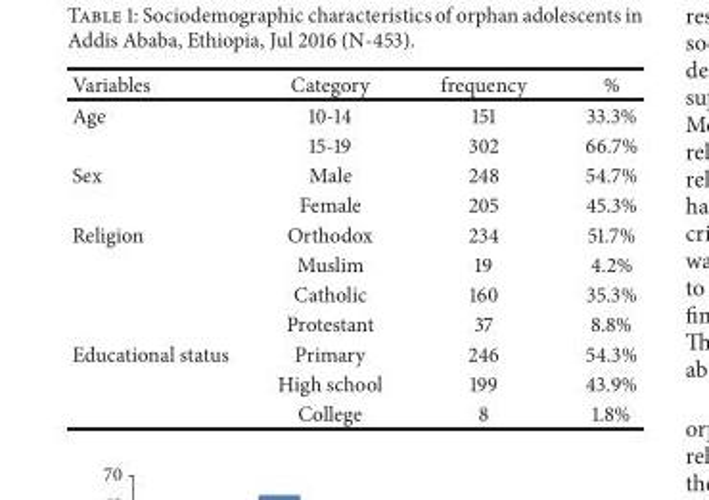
<table><thead><tr><td>Variables</td><td>Category</td><td>frequency</td><td>%</td></tr></thead><tbody><tr><td rowspan="2">Age</td><td>10-14</td><td>151</td><td>33.3%</td></tr><tr><td>15-19</td><td>302</td><td>66.7%</td></tr><tr><td rowspan="2">Sex</td><td>Male</td><td>248</td><td>54.7%</td></tr><tr><td>Female</td><td>205</td><td>45.3%</td></tr><tr><td rowspan="4">Religion</td><td>Orthodox</td><td>234</td><td>51.7%</td></tr><tr><td>Muslim</td><td>19</td><td>4.2%</td></tr><tr><td>Catholic</td><td>160</td><td>35.3%</td></tr><tr><td>Protestant</td><td>37</td><td>8.8%</td></tr><tr><td rowspan="3">Educational status</td><td>Primary</td><td>246</td><td>54.3%</td></tr><tr><td>High school</td><td>199</td><td>43.9%</td></tr><tr><td>College</td><td>8</td><td>1.8%</td></tr></tbody></table>